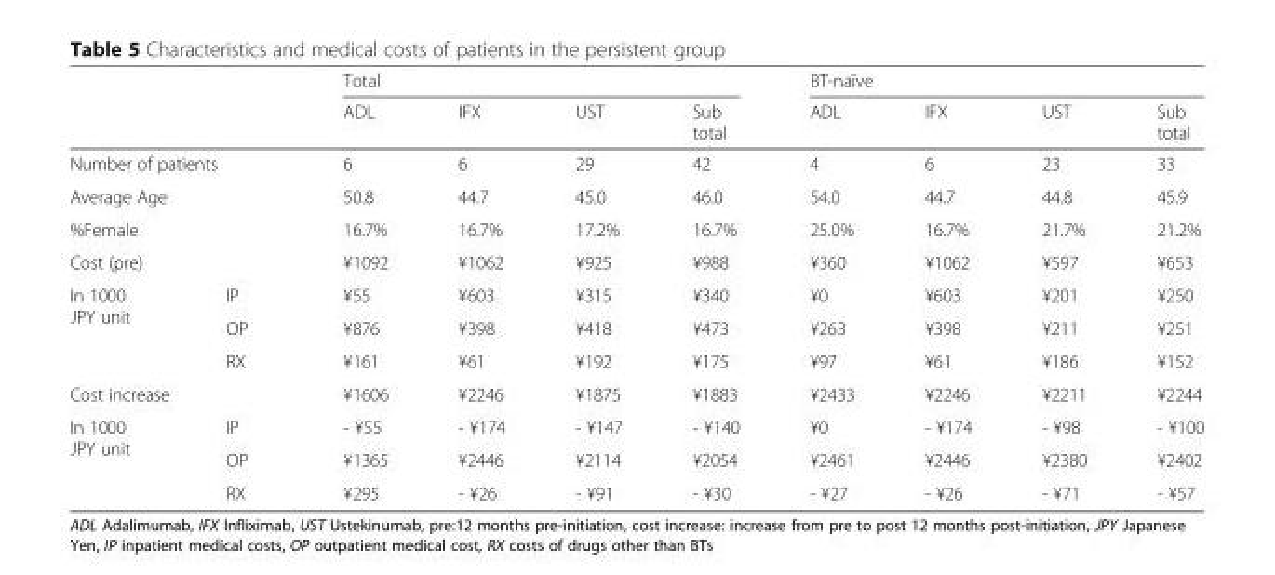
<table><thead><tr><td rowspan="2"></td><td rowspan="2"></td><td colspan="4">Total</td><td colspan="4">BT-naïve</td></tr><tr><td>ADL</td><td>IFX</td><td>UST</td><td>Sub total</td><td>ADL</td><td>IFX</td><td>UST</td><td>Sub total</td></tr></thead><tbody><tr><td colspan="2">Number of patients</td><td>6</td><td>6</td><td>29</td><td>42</td><td>4</td><td>6</td><td>23</td><td>33</td></tr><tr><td colspan="2">Average Age</td><td>50.8</td><td>44.7</td><td>45.0</td><td>46.0</td><td>54.0</td><td>44.7</td><td>44.8</td><td>45.9</td></tr><tr><td colspan="2">%Female</td><td>16.7%</td><td>16.7%</td><td>17.2%</td><td>16.7%</td><td>25.0%</td><td>16.7%</td><td>21.7%</td><td>21.2%</td></tr><tr><td colspan="2">Cost (pre)</td><td>¥1092</td><td>¥1062</td><td>¥925</td><td>¥988</td><td>¥360</td><td>¥1062</td><td>¥597</td><td>¥653</td></tr><tr><td rowspan="3">In 1000 JPY unit</td><td>IP</td><td>¥55</td><td>¥603</td><td>¥315</td><td>¥340</td><td>¥0</td><td>¥603</td><td>¥201</td><td>¥250</td></tr><tr><td>OP</td><td>¥876</td><td>¥398</td><td>¥418</td><td>¥473</td><td>¥263</td><td>¥398</td><td>¥211</td><td>¥251</td></tr><tr><td>RX</td><td>¥161</td><td>¥61</td><td>¥192</td><td>¥175</td><td>¥97</td><td>¥61</td><td>¥186</td><td>¥152</td></tr><tr><td colspan="2">Cost increase</td><td>¥1606</td><td>¥2246</td><td>¥1875</td><td>¥1883</td><td>¥2433</td><td>¥2246</td><td>¥2211</td><td>¥2244</td></tr><tr><td rowspan="3">In 1000 JPY unit</td><td>IP</td><td>- ¥55</td><td>- ¥174</td><td>- ¥147</td><td>- ¥140</td><td>¥0</td><td>- ¥174</td><td>- ¥98</td><td>- ¥100</td></tr><tr><td>OP</td><td>¥1365</td><td>¥2446</td><td>¥2114</td><td>¥2054</td><td>¥2461</td><td>¥2446</td><td>¥2380</td><td>¥2402</td></tr><tr><td>RX</td><td>¥295</td><td>- ¥26</td><td>- ¥91</td><td>- ¥30</td><td>- ¥27</td><td>- ¥26</td><td>- ¥71</td><td>- ¥57</td></tr></tbody></table>